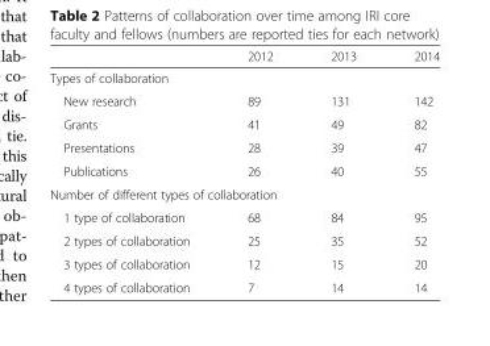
<table><thead><tr><td></td><td>2012</td><td>2013</td><td>2014</td></tr></thead><tbody><tr><td colspan="4">Types of collaboration</td></tr><tr><td>New research</td><td>89</td><td>131</td><td>142</td></tr><tr><td>Grants</td><td>41</td><td>49</td><td>82</td></tr><tr><td>Presentations</td><td>28</td><td>39</td><td>47</td></tr><tr><td>Publications</td><td>26</td><td>40</td><td>55</td></tr><tr><td colspan="4">Number of different types of collaboration</td></tr><tr><td>1 type of collaboration</td><td>68</td><td>84</td><td>95</td></tr><tr><td>2 types of collaboration</td><td>25</td><td>35</td><td>52</td></tr><tr><td>3 types of collaboration</td><td>12</td><td>15</td><td>20</td></tr><tr><td>4 types of collaboration</td><td>7</td><td>14</td><td>14</td></tr></tbody></table>